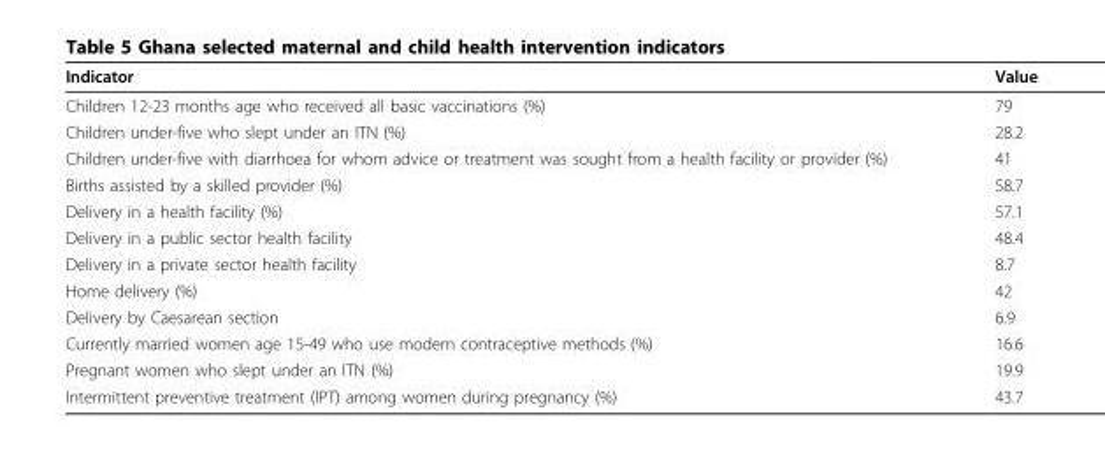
<table><thead><tr><td>Indicator</td><td>Value</td></tr></thead><tbody><tr><td>Children 12-23 months age who received all basic vaccinations (%)</td><td>79</td></tr><tr><td>Children under-five who slept under an ITN (%)</td><td>28.2</td></tr><tr><td>Children under-five with diarrhoea for whom advice or treatment was sought from a health facility or provider (%)</td><td>41</td></tr><tr><td>Births assisted by a skilled provider (%)</td><td>58.7</td></tr><tr><td>Delivery in a health facility (%)</td><td>57.1</td></tr><tr><td>Delivery in a public sector health facility</td><td>48.4</td></tr><tr><td>Delivery in a private sector health facility</td><td>8.7</td></tr><tr><td>Home delivery (%)</td><td>42</td></tr><tr><td>Delivery by Caesarean section</td><td>6.9</td></tr><tr><td>Currently married women age 15-49 who use modern contraceptive methods (%)</td><td>16.6</td></tr><tr><td>Pregnant women who slept under an ITN (%)</td><td>19.9</td></tr><tr><td>Intermittent preventive treatment (IPT) among women during pregnancy (%)</td><td>43.7</td></tr></tbody></table>